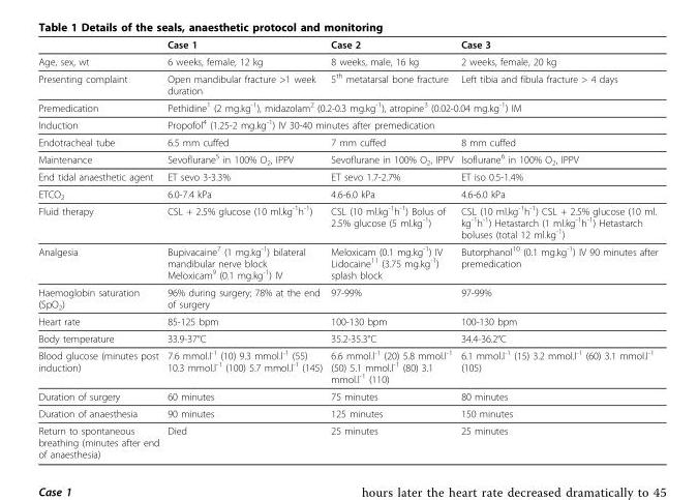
<table><thead><tr><td></td><td>Case 1</td><td>Case 2</td><td>Case 3</td></tr></thead><tbody><tr><td>Age, sex, wt</td><td>6 weeks, female, 12 kg</td><td>8 weeks, male, 16 kg</td><td>2 weeks, female, 20 kg</td></tr><tr><td>Presenting complaint</td><td>Open mandibular fracture &gt;1 week duration</td><td>5<sup>th</sup> metatarsal bone fracture</td><td>Left tibia and fibula fracture &gt; 4 days</td></tr><tr><td>Premedication</td><td colspan="3">Pethidine<sup>1</sup> (2 mg.kg<sup>-1</sup>), midazolam<sup>2</sup> (0.2-0.3 mg.kg<sup>-1</sup>), atropine<sup>3</sup> (0.02-0.04 mg.kg<sup>-1</sup>) IM</td></tr><tr><td>Induction</td><td colspan="3">Propofol<sup>4</sup> (1.25-2 mg.kg<sup>-1</sup>) IV 30-40 minutes after premedication</td></tr><tr><td>Endotracheal tube</td><td>6.5 mm cuffed</td><td>7 mm cuffed</td><td>8 mm cuffed</td></tr><tr><td>Maintenance</td><td>Sevoflurane<sup>5</sup> in 100% O<sub>2</sub>, IPPV</td><td>Sevoflurane in 100% O<sub>2</sub>, IPPV</td><td>Isoflurane<sup>6</sup> in 100% O<sub>2</sub>, IPPV</td></tr><tr><td>End tidal anaesthetic agent</td><td>ET sevo 3-3.3%</td><td>ET sevo 1.7-2.7%</td><td>ET iso 0.5-1.4%</td></tr><tr><td>ETCO<sub>2</sub></td><td>6.0-7.4 kPa</td><td>4.6-6.0 kPa</td><td>4.6-6.0 kPa</td></tr><tr><td>Fluid therapy</td><td>CSL + 2.5% glucose (10 ml.kg<sup>-1</sup>h<sup>-1</sup>)</td><td>CSL (10 ml.kg<sup>-1</sup>h<sup>-1</sup>) Bolus of 2.5% glucose (5 ml.kg<sup>-1</sup>)</td><td>CSL (10 ml.kg<sup>-1</sup>h<sup>-1</sup>) CSL + 2.5% glucose (10 ml. kg<sup>-1</sup>h<sup>-1</sup>) Hetastarch (1 ml.kg<sup>-1</sup>h<sup>-1</sup>) Hetastarch boluses (total 12 ml.kg<sup>-1</sup>)</td></tr><tr><td>Analgesia</td><td>Bupivacaine<sup>7</sup> (1 mg.kg<sup>-1</sup>) bilateral mandibular nerve block Meloxicam<sup>9</sup> (0.1 mg.kg<sup>-1</sup>) IV</td><td>Meloxicam (0.1 mg.kg<sup>-1</sup>) IV Lidocaine<sup>11</sup> (3.75 mg.kg<sup>-1</sup>) splash block</td><td>Butorphanol<sup>10</sup> (0.1 mg.kg<sup>-1</sup>) IV 90 minutes after premedication</td></tr><tr><td>Haemoglobin saturation (SpO<sub>2</sub>)</td><td>96% during surgery; 78% at the end of surgery</td><td>97-99%</td><td>97-99%</td></tr><tr><td>Heart rate</td><td>85-125 bpm</td><td>100-130 bpm</td><td>100-130 bpm</td></tr><tr><td>Body temperature</td><td>33.9-37°C</td><td>35.2-35.3°C</td><td>34.4-36.2°C</td></tr><tr><td>Blood glucose (minutes post induction)</td><td>7.6 mmol.l<sup>-1</sup> (10) 9.3 mmol.l<sup>-1</sup> (55) 10.3 mmol.l<sup>-1</sup> (100) 5.7 mmol.l<sup>-1</sup> (145)</td><td>6.6 mmol.l<sup>-1</sup> (20) 5.8 mmol.l<sup>-1</sup> (50) 5.1 mmol.l<sup>-1</sup> (80) 3.1 mmol.l<sup>-1</sup> (110)</td><td>6.1 mmol.l<sup>-1</sup> (15) 3.2 mmol.l<sup>-1</sup> (60) 3.1 mmol.l<sup>-1</sup> (105)</td></tr><tr><td>Duration of surgery</td><td>60 minutes</td><td>75 minutes</td><td>80 minutes</td></tr><tr><td>Duration of anaesthesia</td><td>90 minutes</td><td>125 minutes</td><td>150 minutes</td></tr><tr><td>Return to spontaneous breathing (minutes after end of anaesthesia)</td><td>Died</td><td>25 minutes</td><td>25 minutes</td></tr></tbody></table>